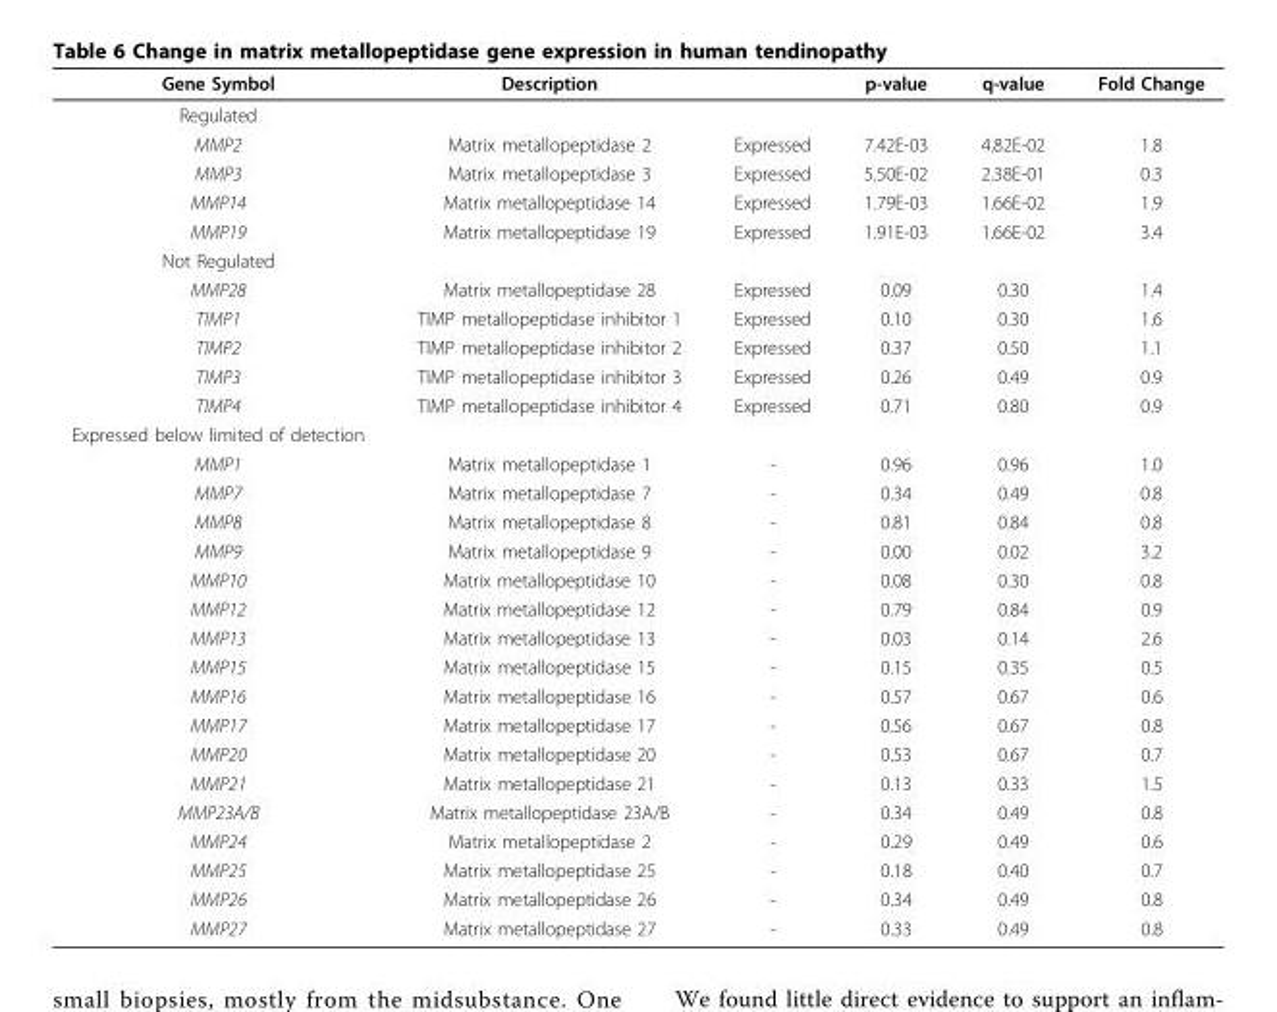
<table><thead><tr><td>Gene Symbol</td><td>Description</td><td></td><td>p-value</td><td>q-value</td><td>Fold Change</td></tr></thead><tbody><tr><td colspan="6">Regulated</td></tr><tr><td>MMP2</td><td>Matrix metallopeptidase 2</td><td>Expressed</td><td>7.42E-03</td><td>4.82E-02</td><td>1.8</td></tr><tr><td>MMP3</td><td>Matrix metallopeptidase 3</td><td>Expressed</td><td>5.50E-02</td><td>2.38E-01</td><td>0.3</td></tr><tr><td>MMP14</td><td>Matrix metallopeptidase 14</td><td>Expressed</td><td>1.79E-03</td><td>1.66E-02</td><td>1.9</td></tr><tr><td>MMP19</td><td>Matrix metallopeptidase 19</td><td>Expressed</td><td>1.91E-03</td><td>1.66E-02</td><td>3.4</td></tr><tr><td colspan="6">Not Regulated</td></tr><tr><td>MMP28</td><td>Matrix metallopeptidase 28</td><td>Expressed</td><td>0.09</td><td>0.30</td><td>1.4</td></tr><tr><td>TIMP1</td><td>TIMP metallopeptidase inhibitor 1</td><td>Expressed</td><td>0.10</td><td>0.30</td><td>1.6</td></tr><tr><td>TIMP2</td><td>TIMP metallopeptidase inhibitor 2</td><td>Expressed</td><td>0.37</td><td>0.50</td><td>1.1</td></tr><tr><td>TIMP3</td><td>TIMP metallopeptidase inhibitor 3</td><td>Expressed</td><td>0.26</td><td>0.49</td><td>0.9</td></tr><tr><td>TIMP4</td><td>TIMP metallopeptidase inhibitor 4</td><td>Expressed</td><td>0.71</td><td>0.80</td><td>0.9</td></tr><tr><td colspan="6">Expressed below limited of detection</td></tr><tr><td>MMP1</td><td>Matrix metallopeptidase 1</td><td>-</td><td>0.96</td><td>0.96</td><td>1.0</td></tr><tr><td>MMP7</td><td>Matrix metallopeptidase 7</td><td>-</td><td>0.34</td><td>0.49</td><td>0.8</td></tr><tr><td>MMP8</td><td>Matrix metallopeptidase 8</td><td>-</td><td>0.81</td><td>0.84</td><td>0.8</td></tr><tr><td>MMP9</td><td>Matrix metallopeptidase 9</td><td>-</td><td>0.00</td><td>0.02</td><td>3.2</td></tr><tr><td>MMP10</td><td>Matrix metallopeptidase 10</td><td>-</td><td>0.08</td><td>0.30</td><td>0.8</td></tr><tr><td>MMP12</td><td>Matrix metallopeptidase 12</td><td>-</td><td>0.79</td><td>0.84</td><td>0.9</td></tr><tr><td>MMP13</td><td>Matrix metallopeptidase 13</td><td>-</td><td>0.03</td><td>0.14</td><td>2.6</td></tr><tr><td>MMP15</td><td>Matrix metallopeptidase 15</td><td>-</td><td>0.15</td><td>0.35</td><td>0.5</td></tr><tr><td>MMP16</td><td>Matrix metallopeptidase 16</td><td>-</td><td>0.57</td><td>0.67</td><td>0.6</td></tr><tr><td>MMP17</td><td>Matrix metallopeptidase 17</td><td>-</td><td>0.56</td><td>0.67</td><td>0.8</td></tr><tr><td>MMP20</td><td>Matrix metallopeptidase 20</td><td>-</td><td>0.53</td><td>0.67</td><td>0.7</td></tr><tr><td>MMP21</td><td>Matrix metallopeptidase 21</td><td>-</td><td>0.13</td><td>0.33</td><td>1.5</td></tr><tr><td>MMP23A/B</td><td>Matrix metallopeptidase 23A/B</td><td>-</td><td>0.34</td><td>0.49</td><td>0.8</td></tr><tr><td>MMP24</td><td>Matrix metallopeptidase 2</td><td>-</td><td>0.29</td><td>0.49</td><td>0.6</td></tr><tr><td>MMP25</td><td>Matrix metallopeptidase 25</td><td>-</td><td>0.18</td><td>0.40</td><td>0.7</td></tr><tr><td>MMP26</td><td>Matrix metallopeptidase 26</td><td>-</td><td>0.34</td><td>0.49</td><td>0.8</td></tr><tr><td>MMP27</td><td>Matrix metallopeptidase 27</td><td>-</td><td>0.33</td><td>0.49</td><td>0.8</td></tr></tbody></table>